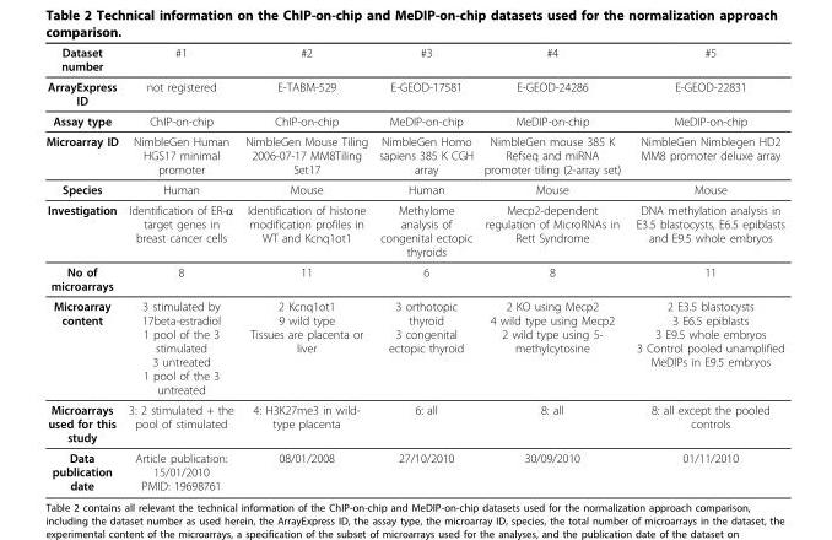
<table><thead><tr><td>Dataset number</td><td>#1</td><td>#2</td><td>#3</td><td>#4</td><td>#5</td></tr></thead><tbody><tr><td>ArrayExpress ID</td><td>not registered</td><td>E-TABM-529</td><td>E-GEOD-17581</td><td>E-GEOD-24286</td><td>E-GEOD-22831</td></tr><tr><td>Assay type</td><td>ChIP-on-chip</td><td>ChIP-on-chip</td><td>MeDIP-on-chip</td><td>MeDIP-on-chip</td><td>MeDIP-on-chip</td></tr><tr><td>Microarray ID</td><td>NimbleGen Human HGS17 minimal promoter</td><td>NimbleGen Mouse Tiling 2006-07-17 MM8Tiling Set17</td><td>NimbleGen Homo sapiens 385 K CGH array</td><td>NimbleGen mouse 385 K Refseq and miRNA promoter tiling (2-array set)</td><td>NimbleGen Nimblegen HD2 MM8 promoter deluxe array</td></tr><tr><td>Species</td><td>Human</td><td>Mouse</td><td>Human</td><td>Mouse</td><td>Mouse</td></tr><tr><td>Investigation</td><td>Identification of ER-α target genes in breast cancer cells</td><td>Identification of histone modification profiles in WT and Kcnq1ot1</td><td>Methylome analysis of congenital ectopic thyroids</td><td>Mecp2-dependent regulation of MicroRNAs in Rett Syndrome</td><td>DNA methylation analysis in E3.5 blastocysts, E6.5 epiblasts and E9.5 whole embryos</td></tr><tr><td>No of microarrays</td><td>8</td><td>11</td><td>6</td><td>8</td><td>11</td></tr><tr><td>Microarray content</td><td>3 stimulated by 17beta-estradiol 1 pool of the 3 stimulated 3 untreated 1 pool of the 3 untreated</td><td>2 Kcnq1ot1 9 wild type Tissues are placenta or liver</td><td>3 orthotopic thyroid 3 congenital ectopic thyroid</td><td>2 KO using Mecp2 4 wild type using Mecp2 2 wild type using 5- methylcytosine</td><td>2 E3.5 blastocysts 3 E6.5 epiblasts 3 E9.5 whole embryos 3 Control pooled unamplified MeDIPs in E9.5 embryos</td></tr><tr><td>Microarrays used for this study</td><td>3: 2 stimulated + the pool of stimulated</td><td>4: H3K27me3 in wild- type placenta</td><td>6: all</td><td>8: all</td><td>8: all except the pooled controls</td></tr><tr><td>Data publication date</td><td>Article publication: 15/01/2010 PMID: 19698761</td><td>08/01/2008</td><td>27/10/2010</td><td>30/09/2010</td><td>01/11/2010</td></tr></tbody></table>